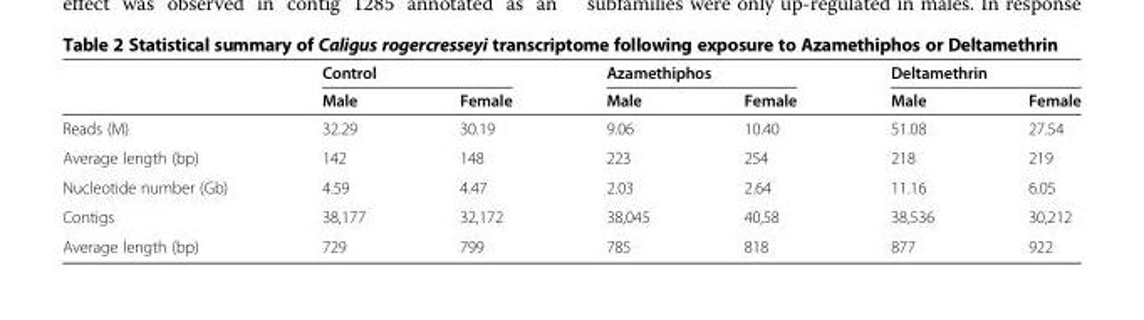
<table><thead><tr><td rowspan="2"></td><td colspan="2">Control</td><td colspan="2">Azamethiphos</td><td colspan="2">Deltamethrin</td></tr><tr><td>Male</td><td>Female</td><td>Male</td><td>Female</td><td>Male</td><td>Female</td></tr></thead><tbody><tr><td>Reads (M)</td><td>32.29</td><td>30.19</td><td>9.06</td><td>10.40</td><td>51.08</td><td>27.54</td></tr><tr><td>Average length (bp)</td><td>142</td><td>148</td><td>223</td><td>254</td><td>218</td><td>219</td></tr><tr><td>Nucleotide number (Gb)</td><td>4.59</td><td>4.47</td><td>2.03</td><td>2.64</td><td>11.16</td><td>6.05</td></tr><tr><td>Contigs</td><td>38,177</td><td>32,172</td><td>38,045</td><td>40,58</td><td>38,536</td><td>30,212</td></tr><tr><td>Average length (bp)</td><td>729</td><td>799</td><td>785</td><td>818</td><td>877</td><td>922</td></tr></tbody></table>